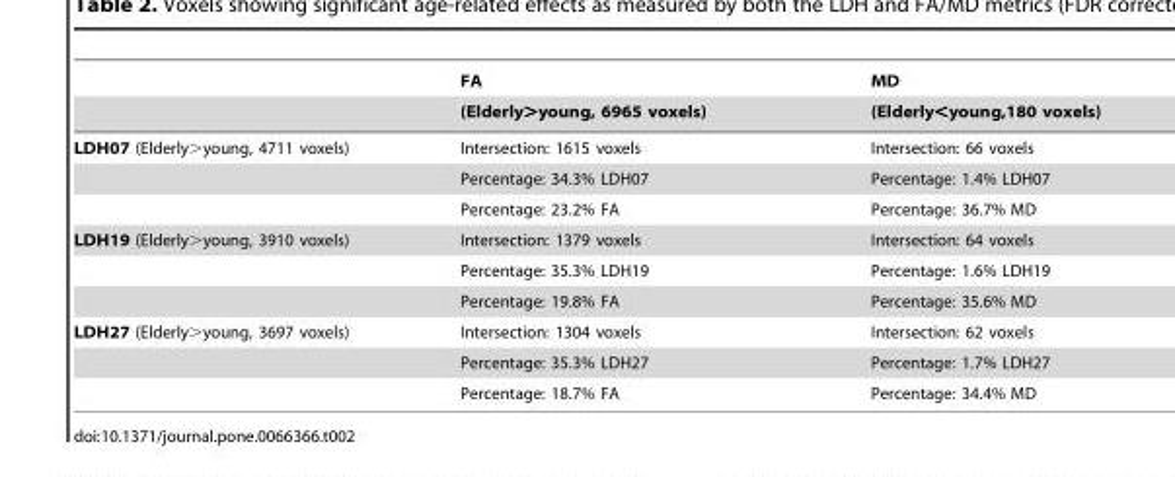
<table><thead><tr><td rowspan="2"></td><td rowspan="2">FA (Elderly&gt;young, 6965 voxels)</td><td rowspan="2">MD (Elderly&lt;young,180 voxels)</td></tr><tr></tr></thead><tbody><tr><td rowspan="3">LDH07 (Elderly&gt;young, 4711 voxels)</td><td>Intersection: 1615 voxels</td><td>Intersection: 66 voxels</td></tr><tr><td>Percentage: 34.3% LDH07</td><td>Percentage: 1.4% LDH07</td></tr><tr><td>Percentage: 23.2% FA</td><td>Percentage: 36.7% MD</td></tr><tr><td rowspan="3">LDH19 (Elderly&gt;young, 3910 voxels)</td><td>Intersection: 1379 voxels</td><td>Intersection: 64 voxels</td></tr><tr><td>Percentage: 35.3% LDH19</td><td>Percentage: 1.6% LDH19</td></tr><tr><td>Percentage: 19.8% FA</td><td>Percentage: 35.6% MD</td></tr><tr><td rowspan="3">LDH27 (Elderly&gt;young, 3697 voxels)</td><td>Intersection: 1304 voxels</td><td>Intersection: 62 voxels</td></tr><tr><td>Percentage: 35.3% LDH27</td><td>Percentage: 1.7% LDH27</td></tr><tr><td>Percentage: 18.7% FA</td><td>Percentage: 34.4% MD</td></tr></tbody></table>